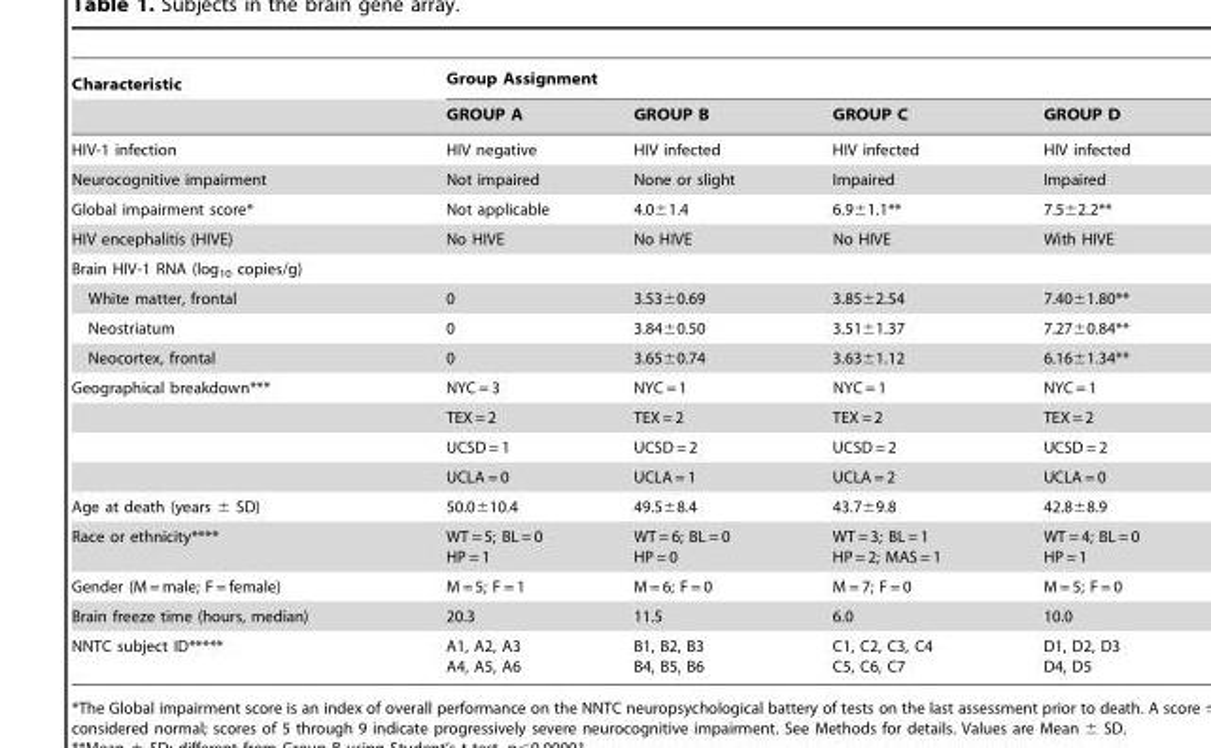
<table><thead><tr><td rowspan="2">Characteristic</td><td colspan="4">Group Assignment</td></tr><tr><td>GROUP A</td><td>GROUP B</td><td>GROUP C</td><td>GROUP D</td></tr></thead><tbody><tr><td>HIV-1 infection</td><td>HIV negative</td><td>HIV infected</td><td>HIV infected</td><td>HIV infected</td></tr><tr><td>Neurocognitive impairment</td><td>Not impaired</td><td>None or slight</td><td>Impaired</td><td>Impaired</td></tr><tr><td>Global impairment score*</td><td>Not applicable</td><td>4.0±1.4</td><td>6.9±1.1**</td><td>7.5±2.2**</td></tr><tr><td>HIV encephalitis (HIVE)</td><td>No HIVE</td><td>No HIVE</td><td>No HIVE</td><td>With HIVE</td></tr><tr><td colspan="5">Brain HIV-1 RNA (log<sub>10</sub> copies/g)</td></tr><tr><td>White matter, frontal</td><td>0</td><td>3.53±0.69</td><td>3.85±2.54</td><td>7.40±1.80**</td></tr><tr><td>Neostriatum</td><td>0</td><td>3.84±0.50</td><td>3.51±1.37</td><td>7.27±0.84**</td></tr><tr><td>Neocortex, frontal</td><td>0</td><td>3.65±0.74</td><td>3.63±1.12</td><td>6.16±1.34**</td></tr><tr><td rowspan="4">Geographical breakdown***</td><td>NYC = 3</td><td>NYC = 1</td><td>NYC = 1</td><td>NYC = 1</td></tr><tr><td>TEX = 2</td><td>TEX = 2</td><td>TEX = 2</td><td>TEX = 2</td></tr><tr><td>UCSD = 1</td><td>UCSD = 2</td><td>UCSD = 2</td><td>UCSD = 2</td></tr><tr><td>UCLA = 0</td><td>UCLA = 1</td><td>UCLA = 2</td><td>UCLA = 0</td></tr><tr><td>Age at death (years ± SD)</td><td>50.0±10.4</td><td>49.5±8.4</td><td>43.7±9.8</td><td>42.8±8.9</td></tr><tr><td>Race or ethnicity****</td><td>WT = 5; BL = 0 HP = 1</td><td>WT = 6; BL = 0 HP = 0</td><td>WT = 3; BL = 1 HP = 2; MAS = 1</td><td>WT = 4; BL = 0 HP = 1</td></tr><tr><td>Gender (M = male; F = female)</td><td>M = 5; F = 1</td><td>M = 6; F = 0</td><td>M = 7; F = 0</td><td>M = 5; F = 0</td></tr><tr><td>Brain freeze time (hours, median)</td><td>20.3</td><td>11.5</td><td>6.0</td><td>10.0</td></tr><tr><td>NNTC subject ID*****</td><td>A1, A2, A3 A4, A5, A6</td><td>B1, B2, B3 B4, B5, B6</td><td>C1, C2, C3, C4 C5, C6, C7</td><td>D1, D2, D3 D4, D5</td></tr></tbody></table>